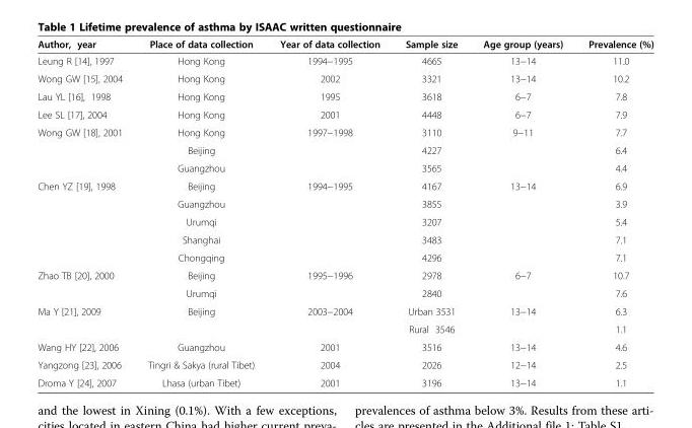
<table><thead><tr><td>Author, year</td><td>Place of data collection</td><td>Year of data collection</td><td>Sample size</td><td>Age group (years)</td><td>Prevalence (%)</td></tr></thead><tbody><tr><td>Leung R [14], 1997</td><td>Hong Kong</td><td>1994−1995</td><td>4665</td><td>13−14</td><td>11.0</td></tr><tr><td>Wong GW [15], 2004</td><td>Hong Kong</td><td>2002</td><td>3321</td><td>13−14</td><td>10.2</td></tr><tr><td>Lau YL [16], 1998</td><td>Hong Kong</td><td>1995</td><td>3618</td><td>6−7</td><td>7.8</td></tr><tr><td>Lee SL [17], 2004</td><td>Hong Kong</td><td>2001</td><td>4448</td><td>6−7</td><td>7.9</td></tr><tr><td rowspan="3">Wong GW [18], 2001</td><td>Hong Kong</td><td>1997−1998</td><td>3110</td><td>9−11</td><td>7.7</td></tr><tr><td>Beijing</td><td></td><td>4227</td><td></td><td>6.4</td></tr><tr><td>Guangzhou</td><td></td><td>3565</td><td></td><td>4.4</td></tr><tr><td rowspan="5">Chen YZ [19], 1998</td><td>Beijing</td><td>1994−1995</td><td>4167</td><td>13−14</td><td>6.9</td></tr><tr><td>Guangzhou</td><td></td><td>3855</td><td></td><td>3.9</td></tr><tr><td>Urumqi</td><td></td><td>3207</td><td></td><td>5.4</td></tr><tr><td>Shanghai</td><td></td><td>3483</td><td></td><td>7.1</td></tr><tr><td>Chongqing</td><td></td><td>4296</td><td></td><td>7.1</td></tr><tr><td rowspan="2">Zhao TB [20], 2000</td><td>Beijing</td><td>1995−1996</td><td>2978</td><td>6−7</td><td>10.7</td></tr><tr><td>Urumqi</td><td></td><td>2840</td><td></td><td>7.6</td></tr><tr><td rowspan="2">Ma Y [21], 2009</td><td>Beijing</td><td>2003−2004</td><td>Urban 3531</td><td>13−14</td><td>6.3</td></tr><tr><td></td><td></td><td>Rural 3546</td><td></td><td>1.1</td></tr><tr><td>Wang HY [22], 2006</td><td>Guangzhou</td><td>2001</td><td>3516</td><td>13−14</td><td>4.6</td></tr><tr><td>Yangzong [23], 2006</td><td>Tingri &amp; Sakya (rural Tibet)</td><td>2004</td><td>2026</td><td>12−14</td><td>2.5</td></tr><tr><td>Droma Y [24], 2007</td><td>Lhasa (urban Tibet)</td><td>2001</td><td>3196</td><td>13−14</td><td>1.1</td></tr></tbody></table>